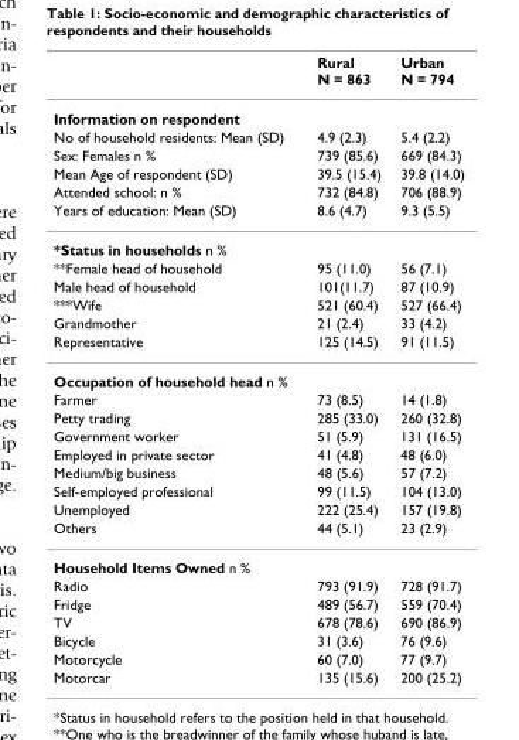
<table><thead><tr><td></td><td>Rural N = 863</td><td>Urban N = 794</td></tr></thead><tbody><tr><td colspan="3">Information on respondent</td></tr><tr><td>No of household residents: Mean (SD)</td><td>4.9 (2.3)</td><td>5.4 (2.2)</td></tr><tr><td>Sex: Females n %</td><td>739 (85.6)</td><td>669 (84.3)</td></tr><tr><td>Mean Age of respondent (SD)</td><td>39.5 (15.4)</td><td>39.8 (14.0)</td></tr><tr><td>Attended school: n %</td><td>732 (84.8)</td><td>706 (88.9)</td></tr><tr><td>Years of education: Mean (SD)</td><td>8.6 (4.7)</td><td>9.3 (5.5)</td></tr><tr><td colspan="3">*Status in households n %</td></tr><tr><td>**Female head of household</td><td>95 (11.0)</td><td>56 (7.1)</td></tr><tr><td>Male head of household</td><td>101(11.7)</td><td>87 (10.9)</td></tr><tr><td>***Wife</td><td>521 (60.4)</td><td>527 (66.4)</td></tr><tr><td>Grandmother</td><td>21 (2.4)</td><td>33 (4.2)</td></tr><tr><td>Representative</td><td>125 (14.5)</td><td>91 (11.5)</td></tr><tr><td colspan="3">Occupation of household head n %</td></tr><tr><td>Farmer</td><td>73 (8.5)</td><td>14 (1.8)</td></tr><tr><td>Petty trading</td><td>285 (33.0)</td><td>260 (32.8)</td></tr><tr><td>Government worker</td><td>51 (5.9)</td><td>131 (16.5)</td></tr><tr><td>Employed in private sector</td><td>41 (4.8)</td><td>48 (6.0)</td></tr><tr><td>Medium/big business</td><td>48 (5.6)</td><td>57 (7.2)</td></tr><tr><td>Self-employed professional</td><td>99 (11.5)</td><td>104 (13.0)</td></tr><tr><td>Unemployed</td><td>222 (25.4)</td><td>157 (19.8)</td></tr><tr><td>Others</td><td>44 (5.1)</td><td>23 (2.9)</td></tr><tr><td colspan="3">Household Items Owned n %</td></tr><tr><td>Radio</td><td>793 (91.9)</td><td>728 (91.7)</td></tr><tr><td>Fridge</td><td>489 (56.7)</td><td>559 (70.4)</td></tr><tr><td>TV</td><td>678 (78.6)</td><td>690 (86.9)</td></tr><tr><td>Bicycle</td><td>31 (3.6)</td><td>76 (9.6)</td></tr><tr><td>Motorcycle</td><td>60 (7.0)</td><td>77 (9.7)</td></tr><tr><td>Motorcar</td><td>135 (15.6)</td><td>200 (25.2)</td></tr></tbody></table>